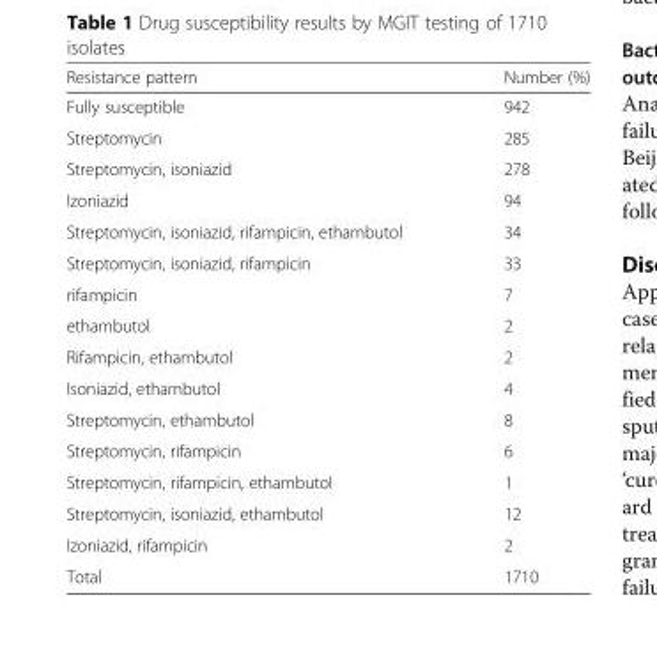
<table><thead><tr><td>Resistance pattern</td><td>Number (%)</td></tr></thead><tbody><tr><td>Fully susceptible</td><td>942</td></tr><tr><td>Streptomycin</td><td>285</td></tr><tr><td>Streptomycin, isoniazid</td><td>278</td></tr><tr><td>Izoniazid</td><td>94</td></tr><tr><td>Streptomycin, isoniazid, rifampicin, ethambutol</td><td>34</td></tr><tr><td>Streptomycin, isoniazid, rifampicin</td><td>33</td></tr><tr><td>rifampicin</td><td>7</td></tr><tr><td>ethambutol</td><td>2</td></tr><tr><td>Rifampicin, ethambutol</td><td>2</td></tr><tr><td>Isoniazid, ethambutol</td><td>4</td></tr><tr><td>Streptomycin, ethambutol</td><td>8</td></tr><tr><td>Streptomycin, rifampicin</td><td>6</td></tr><tr><td>Streptomycin, rifampicin, ethambutol</td><td>1</td></tr><tr><td>Streptomycin, isoniazid, ethambutol</td><td>12</td></tr><tr><td>Izoniazid, rifampicin</td><td>2</td></tr><tr><td>Total</td><td>1710</td></tr></tbody></table>